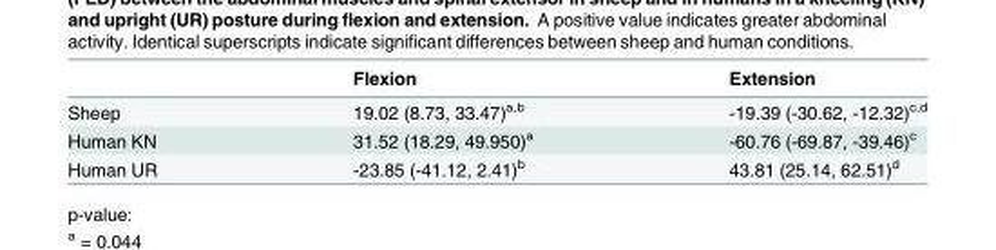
<table><thead><tr><td></td><td>Flexion</td><td>Extension</td></tr></thead><tbody><tr><td>Sheep</td><td>19.02 (8.73, 33.47)<sup>a,b</sup></td><td>-19.39 (-30.62, -12.32)<sup>c,d</sup></td></tr><tr><td>Human KN</td><td>31.52 (18.29, 49.950)<sup>a</sup></td><td>-60.76 (-69.87, -39.46)<sup>c</sup></td></tr><tr><td>Human UR</td><td>-23.85 (-41.12, 2.41)<sup>b</sup></td><td>43.81 (25.14, 62.51)<sup>d</sup></td></tr></tbody></table>